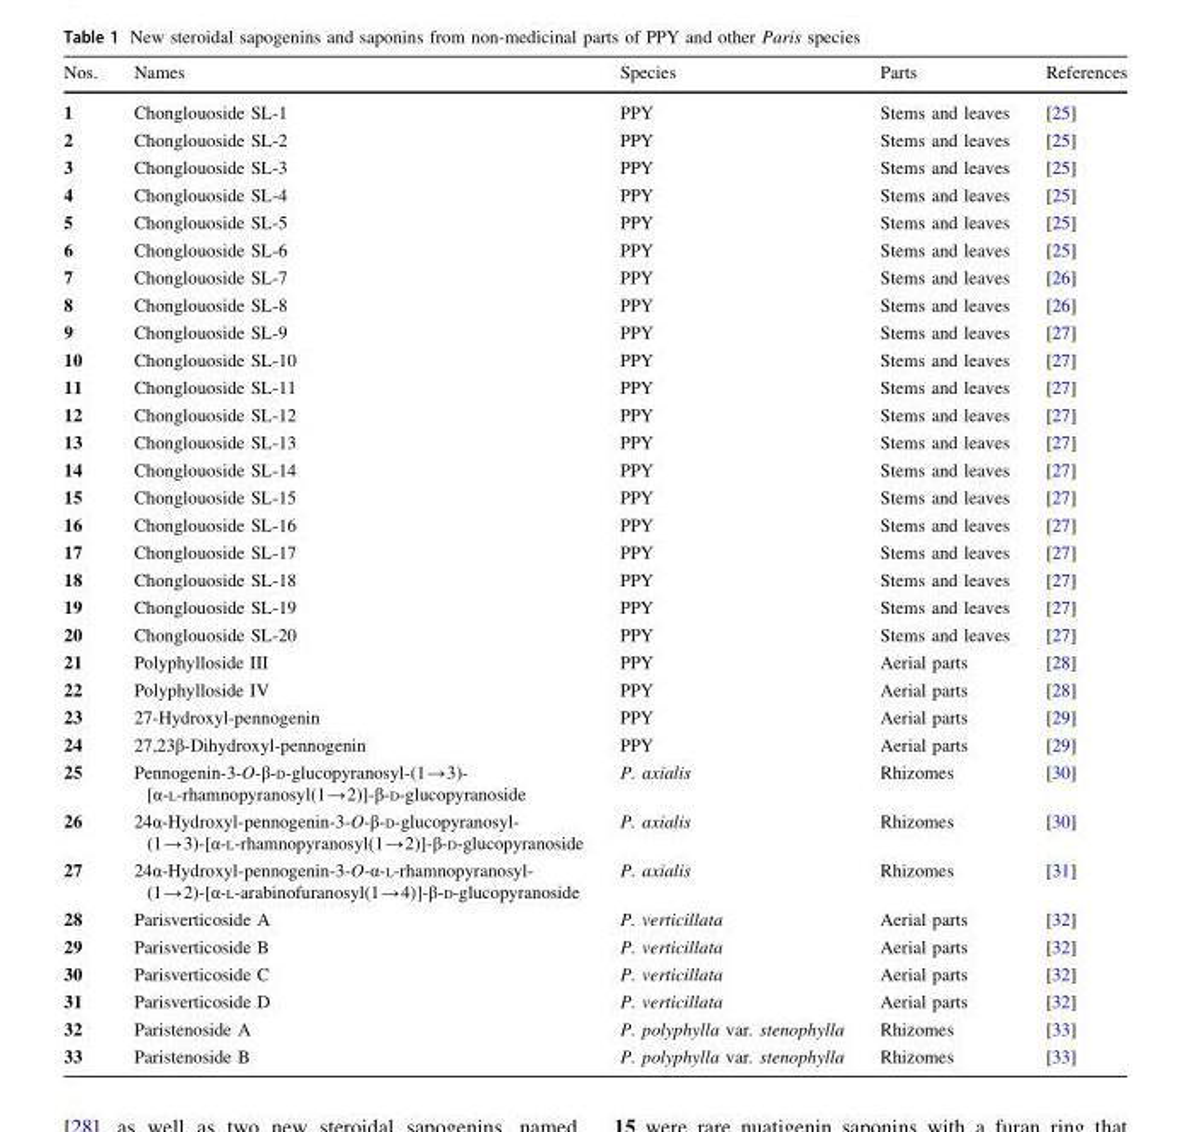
<table><thead><tr><td>Nos.</td><td>Names</td><td>Species</td><td>Parts</td><td>References</td></tr></thead><tbody><tr><td>1</td><td>Chonglouoside SL-1</td><td>PPY</td><td>Stems and leaves</td><td>[25]</td></tr><tr><td>2</td><td>Chonglouoside SL-2</td><td>PPY</td><td>Stems and leaves</td><td>[25]</td></tr><tr><td>3</td><td>Chonglouoside SL-3</td><td>PPY</td><td>Stems and leaves</td><td>[25]</td></tr><tr><td>4</td><td>Chonglouoside SL-4</td><td>PPY</td><td>Stems and leaves</td><td>[25]</td></tr><tr><td>5</td><td>Chonglouoside SL-5</td><td>PPY</td><td>Stems and leaves</td><td>[25]</td></tr><tr><td>6</td><td>Chonglouoside SL-6</td><td>PPY</td><td>Stems and leaves</td><td>[25]</td></tr><tr><td>7</td><td>Chonglouoside SL-7</td><td>PPY</td><td>Stems and leaves</td><td>[26]</td></tr><tr><td>8</td><td>Chonglouoside SL-8</td><td>PPY</td><td>Stems and leaves</td><td>[26]</td></tr><tr><td>9</td><td>Chonglouoside SL-9</td><td>PPY</td><td>Stems and leaves</td><td>[27]</td></tr><tr><td>10</td><td>Chonglouoside SL-10</td><td>PPY</td><td>Stems and leaves</td><td>[27]</td></tr><tr><td>11</td><td>Chonglouoside SL-11</td><td>PPY</td><td>Stems and leaves</td><td>[27]</td></tr><tr><td>12</td><td>Chonglouoside SL-12</td><td>PPY</td><td>Stems and leaves</td><td>[27]</td></tr><tr><td>13</td><td>Chonglouoside SL-13</td><td>PPY</td><td>Stems and leaves</td><td>[27]</td></tr><tr><td>14</td><td>Chonglouoside SL-14</td><td>PPY</td><td>Stems and leaves</td><td>[27]</td></tr><tr><td>15</td><td>Chonglouoside SL-15</td><td>PPY</td><td>Stems and leaves</td><td>[27]</td></tr><tr><td>16</td><td>Chonglouoside SL-16</td><td>PPY</td><td>Stems and leaves</td><td>[27]</td></tr><tr><td>17</td><td>Chonglouoside SL-17</td><td>PPY</td><td>Stems and leaves</td><td>[27]</td></tr><tr><td>18</td><td>Chonglouoside SL-18</td><td>PPY</td><td>Stems and leaves</td><td>[27]</td></tr><tr><td>19</td><td>Chonglouoside SL-19</td><td>PPY</td><td>Stems and leaves</td><td>[27]</td></tr><tr><td>20</td><td>Chonglouoside SL-20</td><td>PPY</td><td>Stems and leaves</td><td>[27]</td></tr><tr><td>21</td><td>Polyphylloside III</td><td>PPY</td><td>Aerial parts</td><td>[28]</td></tr><tr><td>22</td><td>Polyphylloside IV</td><td>PPY</td><td>Aerial parts</td><td>[28]</td></tr><tr><td>23</td><td>27-Hydroxyl-pennogenin</td><td>PPY</td><td>Aerial parts</td><td>[29]</td></tr><tr><td>24</td><td>27,23β-Dihydroxyl-pennogenin</td><td>PPY</td><td>Aerial parts</td><td>[29]</td></tr><tr><td>25</td><td>Pennogenin-3-O-β-D-glucopyranosyl-(1→3)- [α-L-rhamnopyranosyl(1→2)]-β-D-glucopyranoside</td><td>P. axialis</td><td>Rhizomes</td><td>[30]</td></tr><tr><td>26</td><td>24α-Hydroxyl-pennogenin-3-O-β-D-glucopyranosyl- (1→3)-[α-L-rhamnopyranosyl(1→2)]-β-D-glucopyranoside</td><td>P. axialis</td><td>Rhizomes</td><td>[30]</td></tr><tr><td>27</td><td>24α-Hydroxyl-pennogenin-3-O-α-L-rhamnopyranosyl- (1→2)-[α-L-arabinofuranosyl(1→4)]-β-D-glucopyranoside</td><td>P. axialis</td><td>Rhizomes</td><td>[31]</td></tr><tr><td>28</td><td>Parisverticoside A</td><td>P. verticillata</td><td>Aerial parts</td><td>[32]</td></tr><tr><td>29</td><td>Parisverticoside B</td><td>P. verticillata</td><td>Aerial parts</td><td>[32]</td></tr><tr><td>30</td><td>Parisverticoside C</td><td>P. verticillata</td><td>Aerial parts</td><td>[32]</td></tr><tr><td>31</td><td>Parisverticoside D</td><td>P. verticillata</td><td>Aerial parts</td><td>[32]</td></tr><tr><td>32</td><td>Paristenoside A</td><td>P. polyphylla var. stenophylla</td><td>Rhizomes</td><td>[33]</td></tr><tr><td>33</td><td>Paristenoside B</td><td>P. polyphylla var. stenophylla</td><td>Rhizomes</td><td>[33]</td></tr></tbody></table>